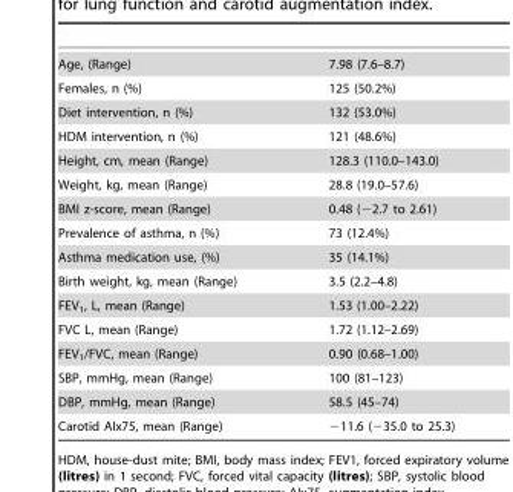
<table><tbody><tr><td>Age, (Range)</td><td>7.98 (7.6–8.7)</td></tr><tr><td>Females, n (%)</td><td>125 (50.2%)</td></tr><tr><td>Diet intervention, n (%)</td><td>132 (53.0%)</td></tr><tr><td>HDM intervention, n (%)</td><td>121 (48.6%)</td></tr><tr><td>Height, cm, mean (Range)</td><td>128.3 (110.0–143.0)</td></tr><tr><td>Weight, kg, mean (Range)</td><td>28.8 (19.0–57.6)</td></tr><tr><td>BMI z-score, mean (Range)</td><td>0.48 (−2.7 to 2.61)</td></tr><tr><td>Prevalence of asthma, n (%)</td><td>73 (12.4%)</td></tr><tr><td>Asthma medication use, (%)</td><td>35 (14.1%)</td></tr><tr><td>Birth weight, kg, mean (Range)</td><td>3.5 (2.2–4.8)</td></tr><tr><td>FEV<sub>1</sub>, L, mean (Range)</td><td>1.53 (1.00–2.22)</td></tr><tr><td>FVC L, mean (Range)</td><td>1.72 (1.12–2.69)</td></tr><tr><td>FEV<sub>1</sub>/FVC, mean (Range)</td><td>0.90 (0.68–1.00)</td></tr><tr><td>SBP, mmHg, mean (Range)</td><td>100 (81–123)</td></tr><tr><td>DBP, mmHg, mean (Range)</td><td>58.5 (45–74)</td></tr><tr><td>Carotid AIx75, mean (Range)</td><td>−11.6 (−35.0 to 25.3)</td></tr></tbody></table>